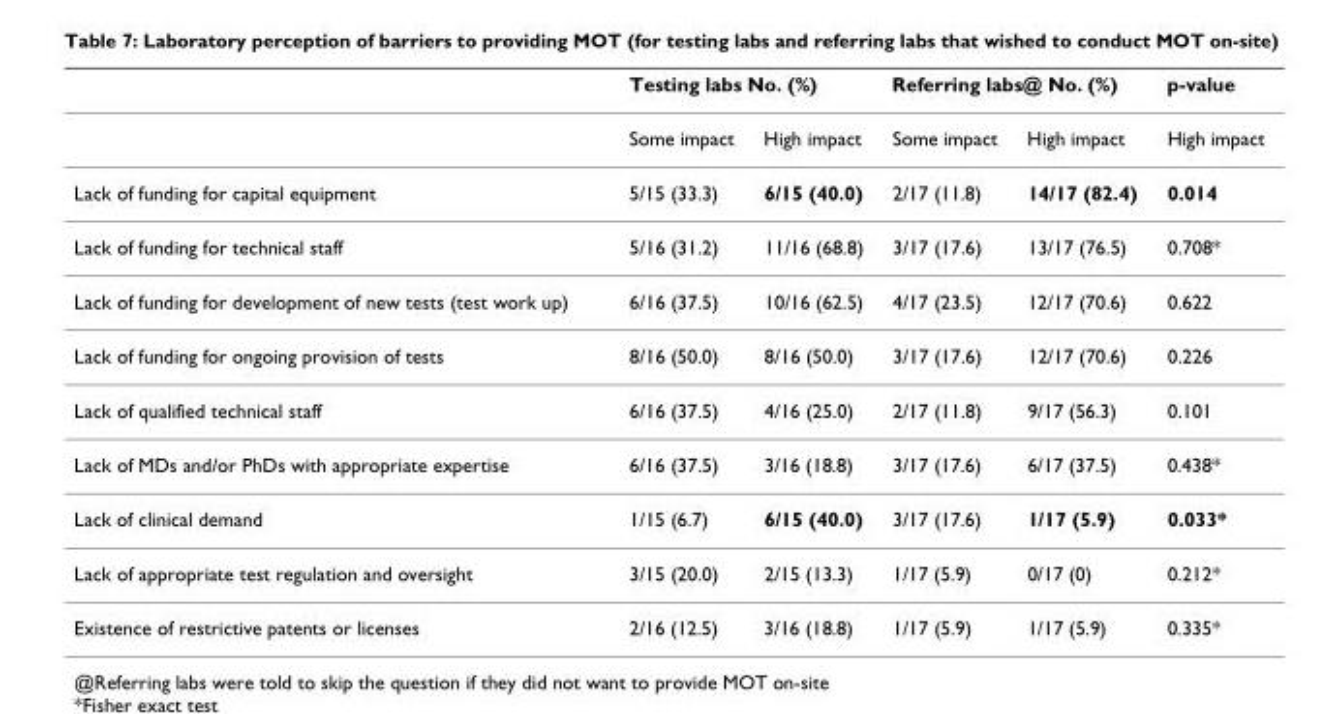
<table><thead><tr><td rowspan="2"></td><td colspan="2">Testing labs No. (%)</td><td colspan="2">Referring labs@ No. (%)</td><td rowspan="2">p-value High impact</td></tr><tr><td>Some impact</td><td>High impact</td><td>Some impact</td><td>High impact</td></tr></thead><tbody><tr><td>Lack of funding for capital equipment</td><td>5/15 (33.3)</td><td>6/15 (40.0)</td><td>2/17 (11.8)</td><td>14/17 (82.4)</td><td>0.014</td></tr><tr><td>Lack of funding for technical staff</td><td>5/16 (31.2)</td><td>11/16 (68.8)</td><td>3/17 (17.6)</td><td>13/17 (76.5)</td><td>0.708*</td></tr><tr><td>Lack of funding for development of new tests (test work up)</td><td>6/16 (37.5)</td><td>10/16 (62.5)</td><td>4/17 (23.5)</td><td>12/17 (70.6)</td><td>0.622</td></tr><tr><td>Lack of funding for ongoing provision of tests</td><td>8/16 (50.0)</td><td>8/16 (50.0)</td><td>3/17 (17.6)</td><td>12/17 (70.6)</td><td>0.226</td></tr><tr><td>Lack of qualified technical staff</td><td>6/16 (37.5)</td><td>4/16 (25.0)</td><td>2/17 (11.8)</td><td>9/17 (56.3)</td><td>0.101</td></tr><tr><td>Lack of MDs and/or PhDs with appropriate expertise</td><td>6/16 (37.5)</td><td>3/16 (18.8)</td><td>3/17 (17.6)</td><td>6/17 (37.5)</td><td>0.438*</td></tr><tr><td>Lack of clinical demand</td><td>1/15 (6.7)</td><td>6/15 (40.0)</td><td>3/17 (17.6)</td><td>1/17 (5.9)</td><td>0.033*</td></tr><tr><td>Lack of appropriate test regulation and oversight</td><td>3/15 (20.0)</td><td>2/15 (13.3)</td><td>1/17 (5.9)</td><td>0/17 (0)</td><td>0.212*</td></tr><tr><td>Existence of restrictive patents or licenses</td><td>2/16 (12.5)</td><td>3/16 (18.8)</td><td>1/17 (5.9)</td><td>1/17 (5.9)</td><td>0.335*</td></tr></tbody></table>